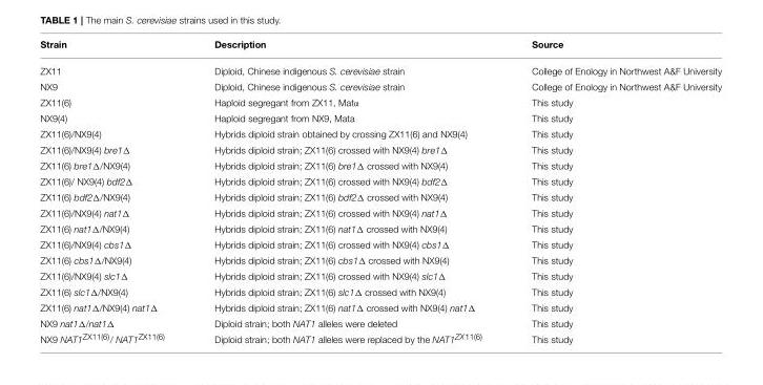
<table><thead><tr><td>Strain</td><td>Description</td><td>Source</td></tr></thead><tbody><tr><td>ZX11</td><td>Diploid, Chinese indigenous S. cerevisiae strain</td><td>College of Enology in Northwest A&amp;F University</td></tr><tr><td>NX9</td><td>Diploid, Chinese indigenous S. cerevisiae strain</td><td>College of Enology in Northwest A&amp;F University</td></tr><tr><td>ZX11(6)</td><td>Haploid segregant from ZX11, Matα</td><td>This study</td></tr><tr><td>NX9(4)</td><td>Haploid segregant from NX9, Mata</td><td>This study</td></tr><tr><td>ZX11(6)/NX9(4)</td><td>Hybrids diploid strain obtained by crossing ZX11(6) and NX9(4)</td><td>This study</td></tr><tr><td>ZX11(6)/NX9(4) bre1Δ</td><td>Hybrids diploid strain; ZX11(6) crossed with NX9(4) bre1Δ</td><td>This study</td></tr><tr><td>ZX11(6) bre1Δ/NX9(4)</td><td>Hybrids diploid strain; ZX11(6) bre1Δ crossed with NX9(4)</td><td>This study</td></tr><tr><td>ZX11(6)/ NX9(4) bdf2Δ</td><td>Hybrids diploid strain; ZX11(6) crossed with NX9(4) bdf2Δ</td><td>This study</td></tr><tr><td>ZX11(6) bdf2Δ/NX9(4)</td><td>Hybrids diploid strain; ZX11(6) bdf2Δ crossed with NX9(4)</td><td>This study</td></tr><tr><td>ZX11(6)/NX9(4) nat1Δ</td><td>Hybrids diploid strain; ZX11(6) crossed with NX9(4) nat1Δ</td><td>This study</td></tr><tr><td>ZX11(6) nat1Δ/NX9(4)</td><td>Hybrids diploid strain; ZX11(6) nat1Δ crossed with NX9(4)</td><td>This study</td></tr><tr><td>ZX11(6)/NX9(4) cbs1Δ</td><td>Hybrids diploid strain; ZX11(6) crossed with NX9(4) cbs1Δ</td><td>This study</td></tr><tr><td>ZX11(6) cbs1Δ/NX9(4)</td><td>Hybrids diploid strain; ZX11(6) cbs1Δ crossed with NX9(4)</td><td>This study</td></tr><tr><td>ZX11(6)/NX9(4) slc1Δ</td><td>Hybrids diploid strain; ZX11(6) crossed with NX9(4) slc1Δ</td><td>This study</td></tr><tr><td>ZX11(6) slc1Δ/NX9(4)</td><td>Hybrids diploid strain; ZX11(6) slc1Δ crossed with NX9(4)</td><td>This study</td></tr><tr><td>ZX11(6) nat1Δ/NX9(4) nat1Δ</td><td>Hybrids diploid strain; ZX11(6) nat1Δ crossed with NX9(4) nat1Δ</td><td>This study</td></tr><tr><td>NX9 nat1Δ/nat1Δ</td><td>Diploid strain; both NAT1 alleles were deleted</td><td>This study</td></tr><tr><td>NX9 NAT1<sup>ZX11(6)</sup>/ NAT1<sup>ZX11(6)</sup></td><td>Diploid strain; both NAT1 alleles were replaced by the NAT1ZX11(6)</td><td>This study</td></tr></tbody></table>